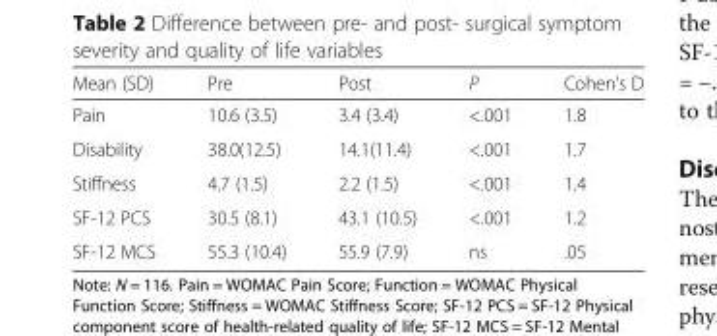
<table><thead><tr><td>Mean (SD)</td><td>Pre</td><td>Post</td><td>P</td><td>Cohen’s D</td></tr></thead><tbody><tr><td>Pain</td><td>10.6 (3.5)</td><td>3.4 (3.4)</td><td>&lt;.001</td><td>1.8</td></tr><tr><td>Disability</td><td>38.0(12.5)</td><td>14.1(11.4)</td><td>&lt;.001</td><td>1.7</td></tr><tr><td>Stiffness</td><td>4.7 (1.5)</td><td>2.2 (1.5)</td><td>&lt;.001</td><td>1.4</td></tr><tr><td>SF-12 PCS</td><td>30.5 (8.1)</td><td>43.1 (10.5)</td><td>&lt;.001</td><td>1.2</td></tr><tr><td>SF-12 MCS</td><td>55.3 (10.4)</td><td>55.9 (7.9)</td><td>ns</td><td>.05</td></tr></tbody></table>